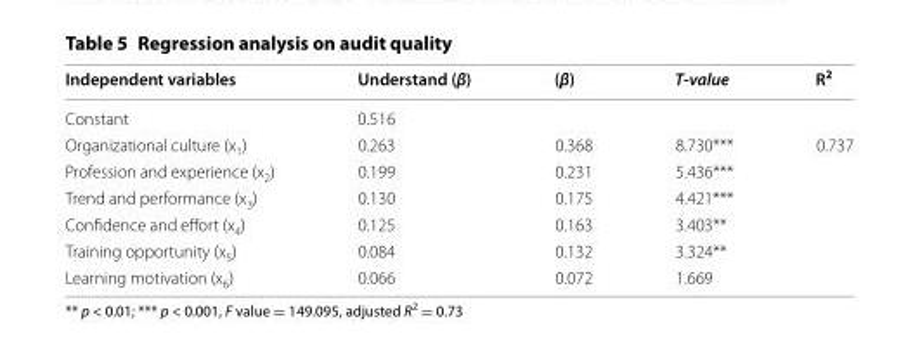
<table><thead><tr><td>Independent variables</td><td>Understand (β)</td><td>(β)</td><td>T‑value</td><td>R<sup>2</sup></td></tr></thead><tbody><tr><td>Constant</td><td>0.516</td><td></td><td></td><td></td></tr><tr><td>Organizational culture (x<sub>1</sub>)</td><td>0.263</td><td>0.368</td><td>8.730***</td><td rowspan="6">0.737</td></tr><tr><td>Profession and experience (x<sub>2</sub>)</td><td>0.199</td><td>0.231</td><td>5.436***</td></tr><tr><td>Trend and performance (x<sub>3</sub>)</td><td>0.130</td><td>0.175</td><td>4.421***</td></tr><tr><td>Confidence and effort (x<sub>4</sub>)</td><td>0.125</td><td>0.163</td><td>3.403**</td></tr><tr><td>Training opportunity (x<sub>5</sub>)</td><td>0.084</td><td>0.132</td><td>3.324**</td></tr><tr><td>Learning motivation (x<sub>6</sub>)</td><td>0.066</td><td>0.072</td><td>1.669</td></tr></tbody></table>